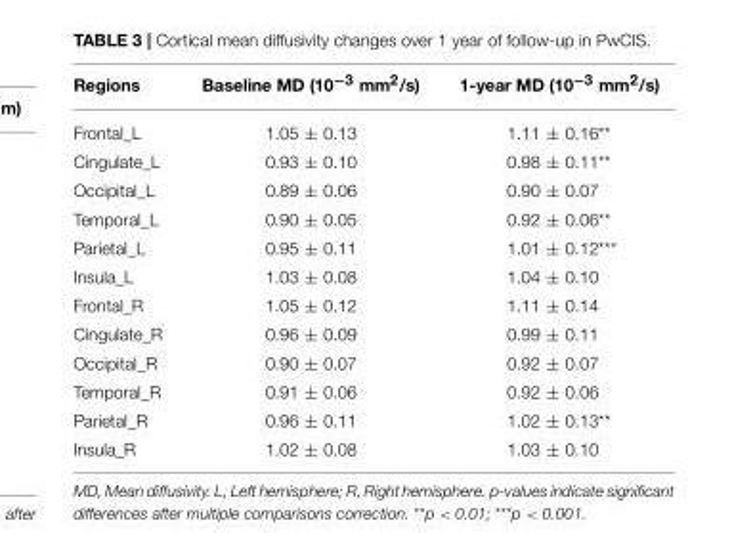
<table><thead><tr><td>Regions</td><td>Baseline MD (10<sup>−3</sup> mm<sup>2</sup>/s)</td><td>1-year MD (10<sup>−3</sup> mm<sup>2</sup>/s)</td></tr></thead><tbody><tr><td>Frontal_L</td><td>1.05 ± 0.13</td><td>1.11 ± 0.16**</td></tr><tr><td>Cingulate_L</td><td>0.93 ± 0.10</td><td>0.98 ± 0.11**</td></tr><tr><td>Occipital_L</td><td>0.89 ± 0.06</td><td>0.90 ± 0.07</td></tr><tr><td>Temporal_L</td><td>0.90 ± 0.05</td><td>0.92 ± 0.06**</td></tr><tr><td>Parietal_L</td><td>0.95 ± 0.11</td><td>1.01 ± 0.12***</td></tr><tr><td>Insula_L</td><td>1.03 ± 0.08</td><td>1.04 ± 0.10</td></tr><tr><td>Frontal_R</td><td>1.05 ± 0.12</td><td>1.11 ± 0.14</td></tr><tr><td>Cingulate_R</td><td>0.96 ± 0.09</td><td>0.99 ± 0.11</td></tr><tr><td>Occipital_R</td><td>0.90 ± 0.07</td><td>0.92 ± 0.07</td></tr><tr><td>Temporal_R</td><td>0.91 ± 0.06</td><td>0.92 ± 0.06</td></tr><tr><td>Parietal_R</td><td>0.96 ± 0.11</td><td>1.02 ± 0.13**</td></tr><tr><td>Insula_R</td><td>1.02 ± 0.08</td><td>1.03 ± 0.10</td></tr></tbody></table>